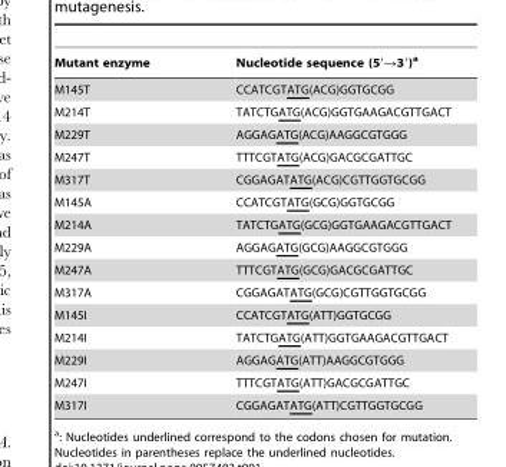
<table><thead><tr><td>Mutant enzyme</td><td>Nucleotide sequence (5′→3′)<sup>a</sup></td></tr></thead><tbody><tr><td>M145T</td><td>CCATCGTATG(ACG)GGTGCGG</td></tr><tr><td>M214T</td><td>TATCTGATG(ACG)GGTGAAGACGTTGACT</td></tr><tr><td>M229T</td><td>AGGAGATG(ACG)AAGGCGTGGG</td></tr><tr><td>M247T</td><td>TTTCGTATG(ACG)GACGCGATTGC</td></tr><tr><td>M317T</td><td>CGGAGATATG(ACG)CGTTGGTGCGG</td></tr><tr><td>M145A</td><td>CCATCGTATG(GCG)GGTGCGG</td></tr><tr><td>M214A</td><td>TATCTGATG(GCG)GGTGAAGACGTTGACT</td></tr><tr><td>M229A</td><td>AGGAGATG(GCG)AAGGCGTGGG</td></tr><tr><td>M247A</td><td>TTTCGTATG(GCG)GACGCGATTGC</td></tr><tr><td>M317A</td><td>CGGAGATATG(GCG)CGTTGGTGCGG</td></tr><tr><td>M145I</td><td>CCATCGTATG(ATT)GGTGCGG</td></tr><tr><td>M214I</td><td>TATCTGATG(ATT)GGTGAAGACGTTGACT</td></tr><tr><td>M229I</td><td>AGGAGATG(ATT)AAGGCGTGGG</td></tr><tr><td>M247I</td><td>TTTCGTATG(ATT)GACGCGATTGC</td></tr><tr><td>M317I</td><td>CGGAGATATG(ATT)CGTTGGTGCGG</td></tr></tbody></table>